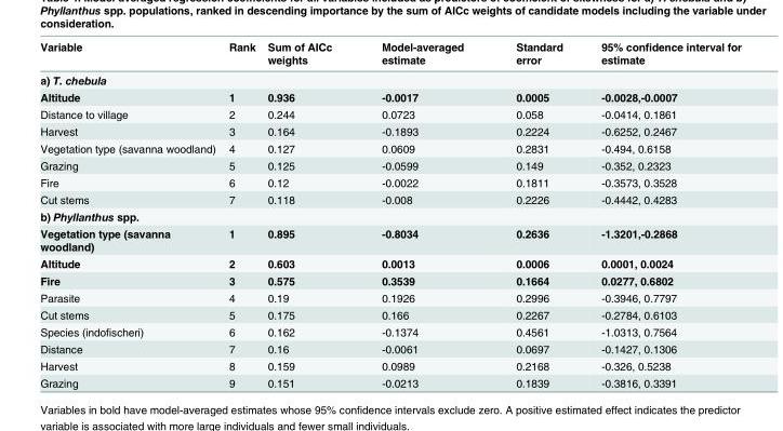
<table><thead><tr><td>Variable</td><td>Rank</td><td>Sum of AICc weights</td><td>Model-averaged estimate</td><td>Standard error</td><td>95% confidence interval for estimate</td></tr></thead><tbody><tr><td colspan="6">a) T. chebula</td></tr><tr><td>Altitude</td><td>1</td><td>0.936</td><td>-0.0017</td><td>0.0005</td><td>-0.0028,-0.0007</td></tr><tr><td>Distance to village</td><td>2</td><td>0.244</td><td>0.0723</td><td>0.058</td><td>-0.0414, 0.1861</td></tr><tr><td>Harvest</td><td>3</td><td>0.164</td><td>-0.1893</td><td>0.2224</td><td>-0.6252, 0.2467</td></tr><tr><td>Vegetation type (savanna woodland)</td><td>4</td><td>0.127</td><td>0.0609</td><td>0.2831</td><td>-0.494, 0.6158</td></tr><tr><td>Grazing</td><td>5</td><td>0.125</td><td>-0.0599</td><td>0.149</td><td>-0.352, 0.2323</td></tr><tr><td>Fire</td><td>6</td><td>0.12</td><td>-0.0022</td><td>0.1811</td><td>-0.3573, 0.3528</td></tr><tr><td>Cut stems</td><td>7</td><td>0.118</td><td>-0.008</td><td>0.2226</td><td>-0.4442, 0.4283</td></tr><tr><td colspan="6">b) Phyllanthus spp.</td></tr><tr><td>Vegetation type (savanna woodland)</td><td>1</td><td>0.895</td><td>-0.8034</td><td>0.2636</td><td>-1.3201,-0.2868</td></tr><tr><td>Altitude</td><td>2</td><td>0.603</td><td>0.0013</td><td>0.0006</td><td>0.0001, 0.0024</td></tr><tr><td>Fire</td><td>3</td><td>0.575</td><td>0.3539</td><td>0.1664</td><td>0.0277, 0.6802</td></tr><tr><td>Parasite</td><td>4</td><td>0.19</td><td>0.1926</td><td>0.2996</td><td>-0.3946, 0.7797</td></tr><tr><td>Cut stems</td><td>5</td><td>0.175</td><td>0.166</td><td>0.2267</td><td>-0.2784, 0.6103</td></tr><tr><td>Species (indofischeri)</td><td>6</td><td>0.162</td><td>-0.1374</td><td>0.4561</td><td>-1.0313, 0.7564</td></tr><tr><td>Distance</td><td>7</td><td>0.16</td><td>-0.0061</td><td>0.0697</td><td>-0.1427, 0.1306</td></tr><tr><td>Harvest</td><td>8</td><td>0.159</td><td>0.0989</td><td>0.2168</td><td>-0.326, 0.5238</td></tr><tr><td>Grazing</td><td>9</td><td>0.151</td><td>-0.0213</td><td>0.1839</td><td>-0.3816, 0.3391</td></tr></tbody></table>